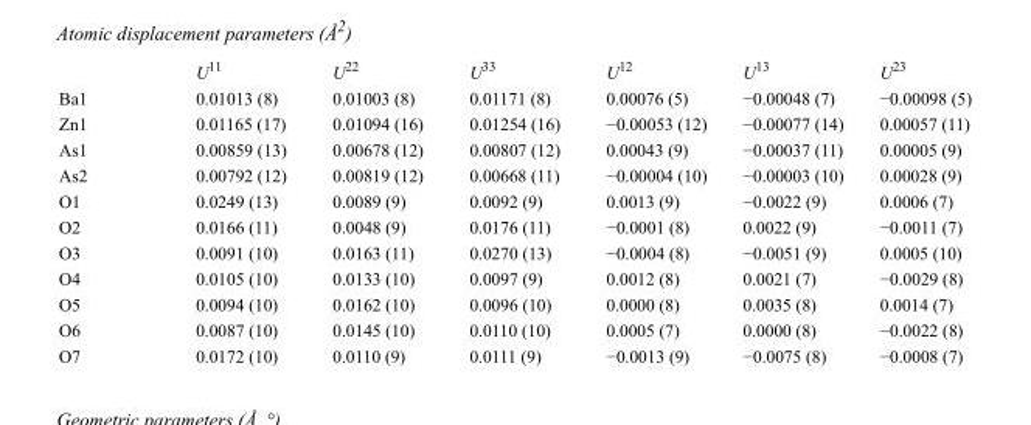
<table><thead><tr><td></td><td>U<sup>11</sup></td><td>U<sup>22</sup></td><td>U<sup>33</sup></td><td>U<sup>12</sup></td><td>U<sup>13</sup></td><td>U<sup>23</sup></td></tr></thead><tbody><tr><td>Ba1</td><td>0.01013 (8)</td><td>0.01003 (8)</td><td>0.01171 (8)</td><td>0.00076 (5)</td><td>−0.00048 (7)</td><td>−0.00098 (5)</td></tr><tr><td>Zn1</td><td>0.01165 (17)</td><td>0.01094 (16)</td><td>0.01254 (16)</td><td>−0.00053 (12)</td><td>−0.00077 (14)</td><td>0.00057 (11)</td></tr><tr><td>As1</td><td>0.00859 (13)</td><td>0.00678 (12)</td><td>0.00807 (12)</td><td>0.00043 (9)</td><td>−0.00037 (11)</td><td>0.00005 (9)</td></tr><tr><td>As2</td><td>0.00792 (12)</td><td>0.00819 (12)</td><td>0.00668 (11)</td><td>−0.00004 (10)</td><td>−0.00003 (10)</td><td>0.00028 (9)</td></tr><tr><td>O1</td><td>0.0249 (13)</td><td>0.0089 (9)</td><td>0.0092 (9)</td><td>0.0013 (9)</td><td>−0.0022 (9)</td><td>0.0006 (7)</td></tr><tr><td>O2</td><td>0.0166 (11)</td><td>0.0048 (9)</td><td>0.0176 (11)</td><td>−0.0001 (8)</td><td>0.0022 (9)</td><td>−0.0011 (7)</td></tr><tr><td>O3</td><td>0.0091 (10)</td><td>0.0163 (11)</td><td>0.0270 (13)</td><td>−0.0004 (8)</td><td>−0.0051 (9)</td><td>0.0005 (10)</td></tr><tr><td>O4</td><td>0.0105 (10)</td><td>0.0133 (10)</td><td>0.0097 (9)</td><td>0.0012 (8)</td><td>0.0021 (7)</td><td>−0.0029 (8)</td></tr><tr><td>O5</td><td>0.0094 (10)</td><td>0.0162 (10)</td><td>0.0096 (10)</td><td>0.0000 (8)</td><td>0.0035 (8)</td><td>0.0014 (7)</td></tr><tr><td>O6</td><td>0.0087 (10)</td><td>0.0145 (10)</td><td>0.0110 (10)</td><td>0.0005 (7)</td><td>0.0000 (8)</td><td>−0.0022 (8)</td></tr><tr><td>O7</td><td>0.0172 (10)</td><td>0.0110 (9)</td><td>0.0111 (9)</td><td>−0.0013 (9)</td><td>−0.0075 (8)</td><td>−0.0008 (7)</td></tr></tbody></table>